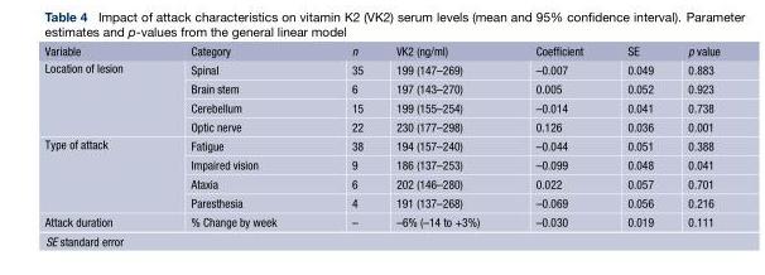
<table><thead><tr><td>Variable</td><td>Category</td><td>n</td><td>VK2 (ng/ml)</td><td>Coefficient</td><td>SE</td><td>p value</td></tr></thead><tbody><tr><td rowspan="4">Location of lesion</td><td>Spinal</td><td>35</td><td>199 (147–269)</td><td>–0.007</td><td>0.049</td><td>0.883</td></tr><tr><td>Brain stem</td><td>6</td><td>197 (143–270)</td><td>0.005</td><td>0.052</td><td>0.923</td></tr><tr><td>Cerebellum</td><td>15</td><td>199 (155–254)</td><td>–0.014</td><td>0.041</td><td>0.738</td></tr><tr><td>Optic nerve</td><td>22</td><td>230 (177–298)</td><td>0.126</td><td>0.036</td><td>0.001</td></tr><tr><td rowspan="4">Type of attack</td><td>Fatigue</td><td>38</td><td>194 (157–240)</td><td>–0.044</td><td>0.051</td><td>0.388</td></tr><tr><td>Impaired vision</td><td>9</td><td>186 (137–253)</td><td>–0.099</td><td>0.048</td><td>0.041</td></tr><tr><td>Ataxia</td><td>6</td><td>202 (146–280)</td><td>0.022</td><td>0.057</td><td>0.701</td></tr><tr><td>Paresthesia</td><td>4</td><td>191 (137–268)</td><td>–0.069</td><td>0.056</td><td>0.216</td></tr><tr><td>Attack duration</td><td>% Change by week</td><td>–</td><td>–6% (–14 to +3%)</td><td>–0.030</td><td>0.019</td><td>0.111</td></tr></tbody></table>